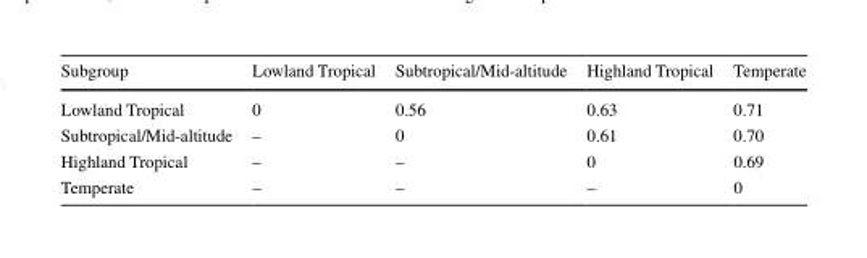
<table><thead><tr><td>Subgroup</td><td>Lowland Tropical</td><td>Subtropical/Mid-altitude</td><td>Highland Tropical</td><td>Temperate</td></tr></thead><tbody><tr><td>Lowland Tropical</td><td>0</td><td>0.56</td><td>0.63</td><td>0.71</td></tr><tr><td>Subtropical/Mid-altitude</td><td>–</td><td>0</td><td>0.61</td><td>0.70</td></tr><tr><td>Highland Tropical</td><td>–</td><td>–</td><td>0</td><td>0.69</td></tr><tr><td>Temperate</td><td>–</td><td>–</td><td>–</td><td>0</td></tr></tbody></table>